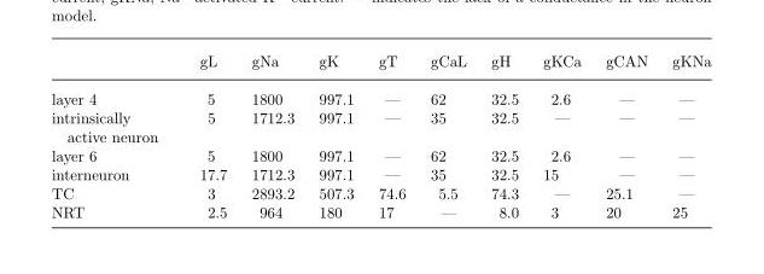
<table><thead><tr><td></td><td>gL</td><td>gNa</td><td>gK</td><td>gT</td><td>gCaL</td><td>gH</td><td>gKCa</td><td>gCAN</td><td>gKNa</td></tr></thead><tbody><tr><td>layer 4</td><td>5</td><td>1800</td><td>997.1</td><td>—</td><td>62</td><td>32.5</td><td>2.6</td><td>—</td><td>—</td></tr><tr><td>intrinsically active neuron</td><td>5</td><td>1712.3</td><td>997.1</td><td>—</td><td>35</td><td>32.5</td><td>—</td><td>—</td><td>—</td></tr><tr><td>layer 6</td><td>5</td><td>1800</td><td>997.1</td><td>—</td><td>62</td><td>32.5</td><td>2.6</td><td>—</td><td>—</td></tr><tr><td>interneuron</td><td>17.7</td><td>1712.3</td><td>997.1</td><td>—</td><td>35</td><td>32.5</td><td>15</td><td>—</td><td>—</td></tr><tr><td>TC</td><td>3</td><td>2893.2</td><td>507.3</td><td>74.6</td><td>5.5</td><td>74.3</td><td>—</td><td>25.1</td><td>—</td></tr><tr><td>NRT</td><td>2.5</td><td>964</td><td>180</td><td>17</td><td>—</td><td>8.0</td><td>3</td><td>20</td><td>25</td></tr></tbody></table>